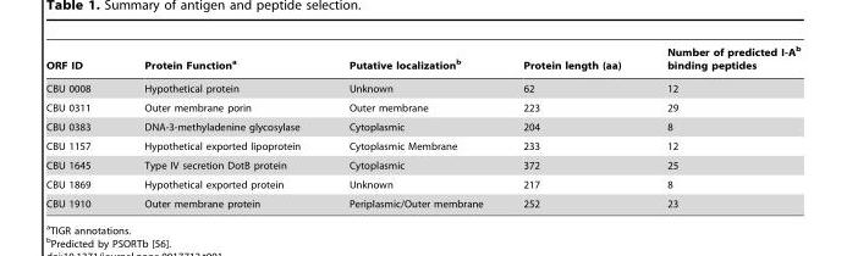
<table><thead><tr><td>ORF ID</td><td>Protein Function<sup>a</sup></td><td>Putative localization<sup>b</sup></td><td>Protein length (aa)</td><td>Number of predicted I-A<sup>b</sup> binding peptides</td></tr></thead><tbody><tr><td>CBU 0008</td><td>Hypothetical protein</td><td>Unknown</td><td>62</td><td>12</td></tr><tr><td>CBU 0311</td><td>Outer membrane porin</td><td>Outer membrane</td><td>223</td><td>29</td></tr><tr><td>CBU 0383</td><td>DNA-3-methyladenine glycosylase</td><td>Cytoplasmic</td><td>204</td><td>8</td></tr><tr><td>CBU 1157</td><td>Hypothetical exported lipoprotein</td><td>Cytoplasmic Membrane</td><td>233</td><td>12</td></tr><tr><td>CBU 1645</td><td>Type IV secretion DotB protein</td><td>Cytoplasmic</td><td>372</td><td>25</td></tr><tr><td>CBU 1869</td><td>Hypothetical exported protein</td><td>Unknown</td><td>217</td><td>8</td></tr><tr><td>CBU 1910</td><td>Outer membrane protein</td><td>Periplasmic/Outer membrane</td><td>252</td><td>23</td></tr></tbody></table>